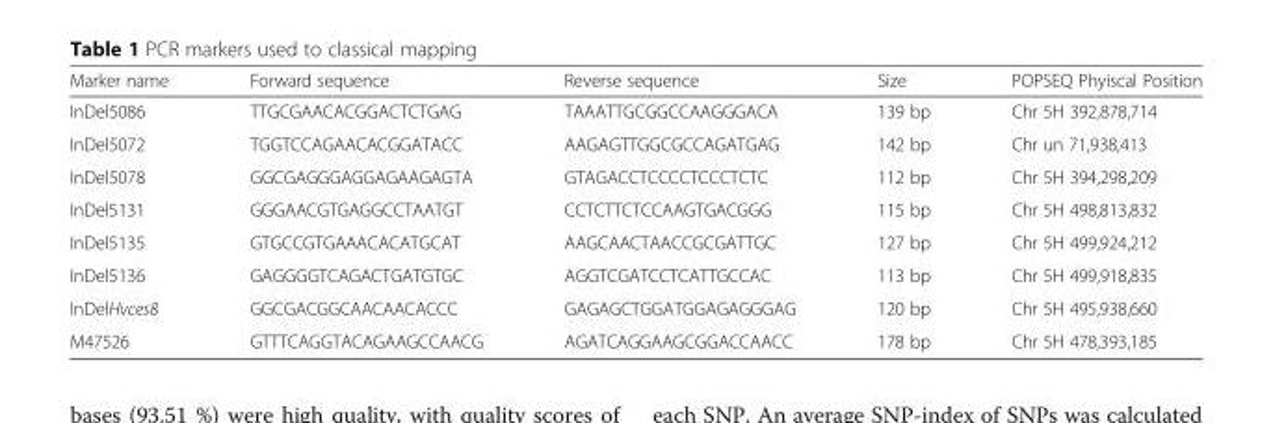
<table><thead><tr><td>Marker name</td><td>Forward sequence</td><td>Reverse sequence</td><td>Size</td><td>POPSEQ Phyiscal Position</td></tr></thead><tbody><tr><td>InDel5086</td><td>TTGCGAACACGGACTCTGAG</td><td>TAAATTGCGGCCAAGGGACA</td><td>139 bp</td><td>Chr 5H 392,878,714</td></tr><tr><td>InDel5072</td><td>TGGTCCAGAACACGGATACC</td><td>AAGAGTTGGCGCCAGATGAG</td><td>142 bp</td><td>Chr un 71,938,413</td></tr><tr><td>InDel5078</td><td>GGCGAGGGAGGAGAAGAGTA</td><td>GTAGACCTCCCCTCCCTCTC</td><td>112 bp</td><td>Chr 5H 394,298,209</td></tr><tr><td>InDel5131</td><td>GGGAACGTGAGGCCTAATGT</td><td>CCTCTTCTCCAAGTGACGGG</td><td>115 bp</td><td>Chr 5H 498,813,832</td></tr><tr><td>InDel5135</td><td>GTGCCGTGAAACACATGCAT</td><td>AAGCAACTAACCGCGATTGC</td><td>127 bp</td><td>Chr 5H 499,924,212</td></tr><tr><td>InDel5136</td><td>GAGGGGTCAGACTGATGTGC</td><td>AGGTCGATCCTCATTGCCAC</td><td>113 bp</td><td>Chr 5H 499,918,835</td></tr><tr><td>InDelHvces8</td><td>GGCGACGGCAACAACACCC</td><td>GAGAGCTGGATGGAGAGGGAG</td><td>120 bp</td><td>Chr 5H 495,938,660</td></tr><tr><td>M47526</td><td>GTTTCAGGTACAGAAGCCAACG</td><td>AGATCAGGAAGCGGACCAACC</td><td>178 bp</td><td>Chr 5H 478,393,185</td></tr></tbody></table>